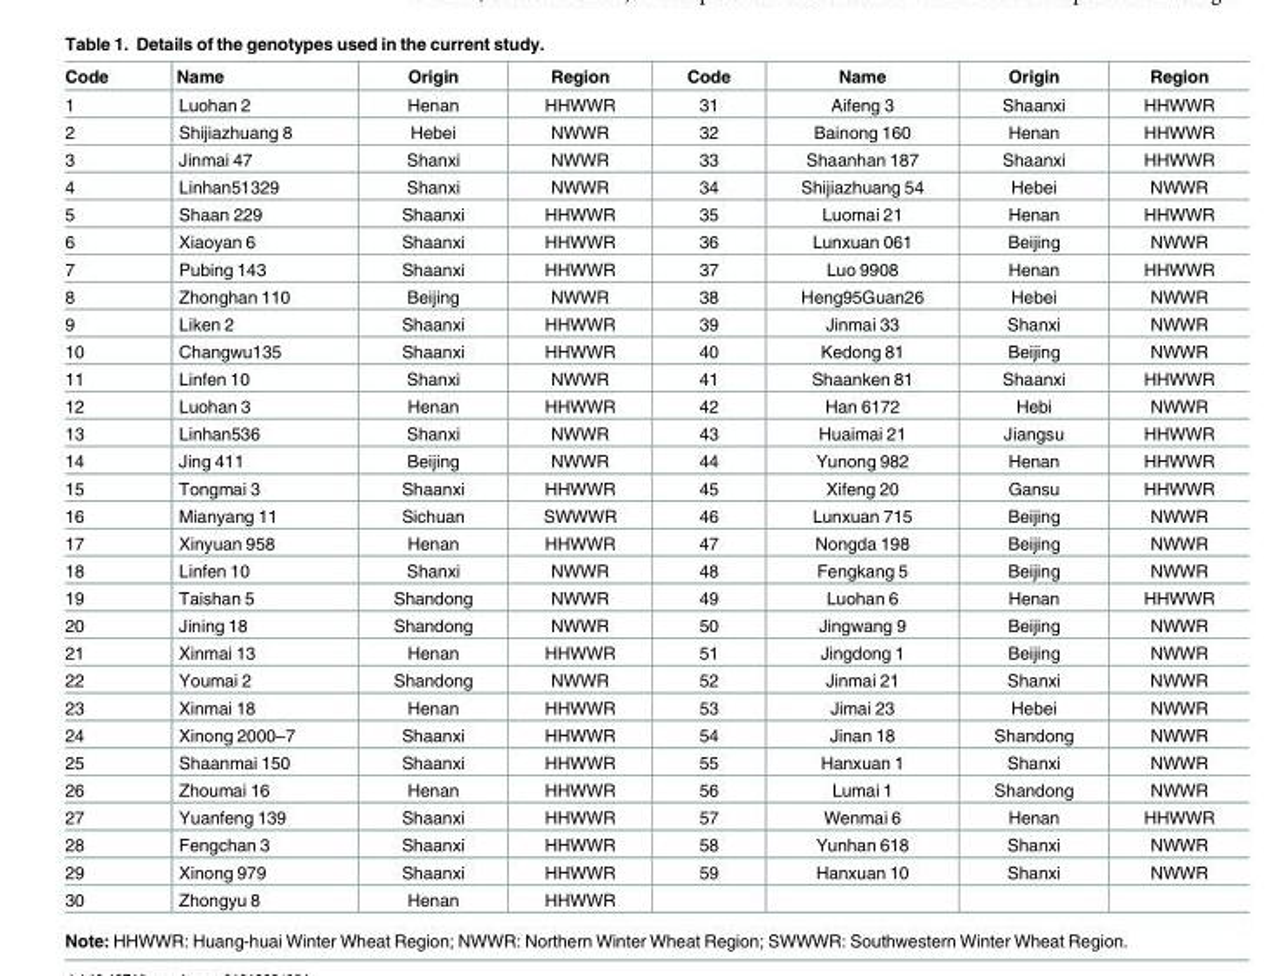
<table><thead><tr><td>Code</td><td>Name</td><td>Origin</td><td>Region</td><td>Code</td><td>Name</td><td>Origin</td><td>Region</td></tr></thead><tbody><tr><td>1</td><td>Luohan 2</td><td>Henan</td><td>HHWWR</td><td>31</td><td>Aifeng 3</td><td>Shaanxi</td><td>HHWWR</td></tr><tr><td>2</td><td>Shijiazhuang 8</td><td>Hebei</td><td>NWWR</td><td>32</td><td>Bainong 160</td><td>Henan</td><td>HHWWR</td></tr><tr><td>3</td><td>Jinmai 47</td><td>Shanxi</td><td>NWWR</td><td>33</td><td>Shaanhan 187</td><td>Shaanxi</td><td>HHWWR</td></tr><tr><td>4</td><td>Linhan51329</td><td>Shanxi</td><td>NWWR</td><td>34</td><td>Shijiazhuang 54</td><td>Hebei</td><td>NWWR</td></tr><tr><td>5</td><td>Shaan 229</td><td>Shaanxi</td><td>HHWWR</td><td>35</td><td>Luomai 21</td><td>Henan</td><td>HHWWR</td></tr><tr><td>6</td><td>Xiaoyan 6</td><td>Shaanxi</td><td>HHWWR</td><td>36</td><td>Lunxuan 061</td><td>Beijing</td><td>NWWR</td></tr><tr><td>7</td><td>Pubing 143</td><td>Shaanxi</td><td>HHWWR</td><td>37</td><td>Luo 9908</td><td>Henan</td><td>HHWWR</td></tr><tr><td>8</td><td>Zhonghan 110</td><td>Beijing</td><td>NWWR</td><td>38</td><td>Heng95Guan26</td><td>Hebei</td><td>NWWR</td></tr><tr><td>9</td><td>Liken 2</td><td>Shaanxi</td><td>HHWWR</td><td>39</td><td>Jinmai 33</td><td>Shanxi</td><td>NWWR</td></tr><tr><td>10</td><td>Changwu135</td><td>Shaanxi</td><td>HHWWR</td><td>40</td><td>Kedong 81</td><td>Beijing</td><td>NWWR</td></tr><tr><td>11</td><td>Linfen 10</td><td>Shanxi</td><td>NWWR</td><td>41</td><td>Shaanken 81</td><td>Shaanxi</td><td>HHWWR</td></tr><tr><td>12</td><td>Luohan 3</td><td>Henan</td><td>HHWWR</td><td>42</td><td>Han 6172</td><td>Hebi</td><td>NWWR</td></tr><tr><td>13</td><td>Linhan536</td><td>Shanxi</td><td>NWWR</td><td>43</td><td>Huaimai 21</td><td>Jiangsu</td><td>HHWWR</td></tr><tr><td>14</td><td>Jing 411</td><td>Beijing</td><td>NWWR</td><td>44</td><td>Yunong 982</td><td>Henan</td><td>HHWWR</td></tr><tr><td>15</td><td>Tongmai 3</td><td>Shaanxi</td><td>HHWWR</td><td>45</td><td>Xifeng 20</td><td>Gansu</td><td>HHWWR</td></tr><tr><td>16</td><td>Mianyang 11</td><td>Sichuan</td><td>SWWWR</td><td>46</td><td>Lunxuan 715</td><td>Beijing</td><td>NWWR</td></tr><tr><td>17</td><td>Xinyuan 958</td><td>Henan</td><td>HHWWR</td><td>47</td><td>Nongda 198</td><td>Beijing</td><td>NWWR</td></tr><tr><td>18</td><td>Linfen 10</td><td>Shanxi</td><td>NWWR</td><td>48</td><td>Fengkang 5</td><td>Beijing</td><td>NWWR</td></tr><tr><td>19</td><td>Taishan 5</td><td>Shandong</td><td>NWWR</td><td>49</td><td>Luohan 6</td><td>Henan</td><td>HHWWR</td></tr><tr><td>20</td><td>Jining 18</td><td>Shandong</td><td>NWWR</td><td>50</td><td>Jingwang 9</td><td>Beijing</td><td>NWWR</td></tr><tr><td>21</td><td>Xinmai 13</td><td>Henan</td><td>HHWWR</td><td>51</td><td>Jingdong 1</td><td>Beijing</td><td>NWWR</td></tr><tr><td>22</td><td>Youmai 2</td><td>Shandong</td><td>NWWR</td><td>52</td><td>Jinmai 21</td><td>Shanxi</td><td>NWWR</td></tr><tr><td>23</td><td>Xinmai 18</td><td>Henan</td><td>HHWWR</td><td>53</td><td>Jimai 23</td><td>Hebei</td><td>NWWR</td></tr><tr><td>24</td><td>Xinong 2000–7</td><td>Shaanxi</td><td>HHWWR</td><td>54</td><td>Jinan 18</td><td>Shandong</td><td>NWWR</td></tr><tr><td>25</td><td>Shaanmai 150</td><td>Shaanxi</td><td>HHWWR</td><td>55</td><td>Hanxuan 1</td><td>Shanxi</td><td>NWWR</td></tr><tr><td>26</td><td>Zhoumai 16</td><td>Henan</td><td>HHWWR</td><td>56</td><td>Lumai 1</td><td>Shandong</td><td>NWWR</td></tr><tr><td>27</td><td>Yuanfeng 139</td><td>Shaanxi</td><td>HHWWR</td><td>57</td><td>Wenmai 6</td><td>Henan</td><td>HHWWR</td></tr><tr><td>28</td><td>Fengchan 3</td><td>Shaanxi</td><td>HHWWR</td><td>58</td><td>Yunhan 618</td><td>Shanxi</td><td>NWWR</td></tr><tr><td>29</td><td>Xinong 979</td><td>Shaanxi</td><td>HHWWR</td><td>59</td><td>Hanxuan 10</td><td>Shanxi</td><td>NWWR</td></tr><tr><td>30</td><td>Zhongyu 8</td><td>Henan</td><td>HHWWR</td><td></td><td></td><td></td><td></td></tr></tbody></table>